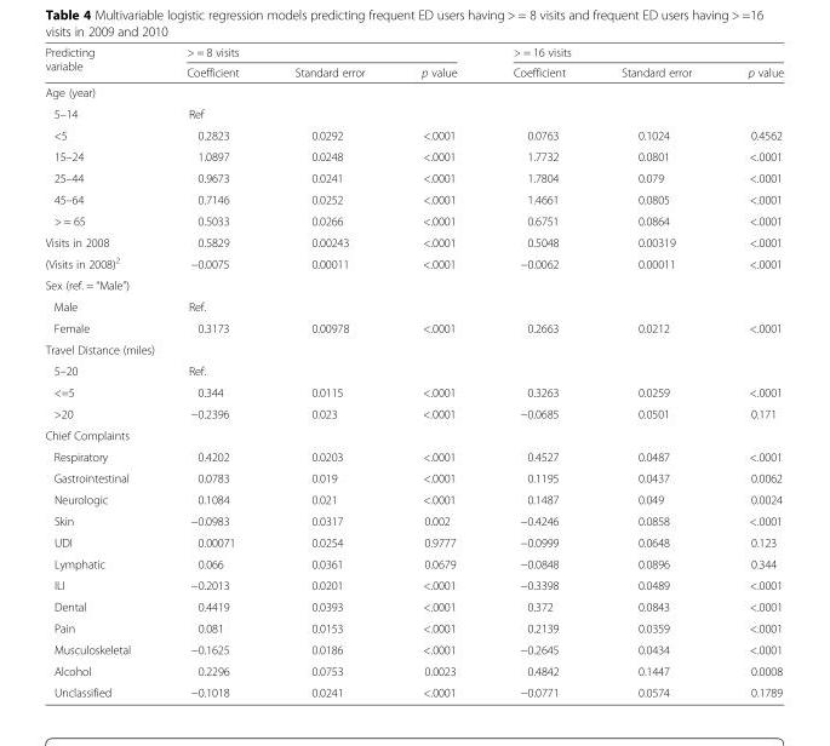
<table><thead><tr><td rowspan="2">Predicting variable</td><td colspan="3">&gt; = 8 visits</td><td colspan="3">&gt; = 16 visits</td></tr><tr><td>Coefficient</td><td>Standard error</td><td>p value</td><td>Coefficient</td><td>Standard error</td><td>p value</td></tr></thead><tbody><tr><td colspan="7">Age (year)</td></tr><tr><td>5–14</td><td colspan="6">Ref</td></tr><tr><td>&lt;5</td><td>0.2823</td><td>0.0292</td><td>&lt;.0001</td><td>0.0763</td><td>0.1024</td><td>0.4562</td></tr><tr><td>15–24</td><td>1.0897</td><td>0.0248</td><td>&lt;.0001</td><td>1.7732</td><td>0.0801</td><td>&lt;.0001</td></tr><tr><td>25–44</td><td>0.9673</td><td>0.0241</td><td>&lt;.0001</td><td>1.7804</td><td>0.079</td><td>&lt;.0001</td></tr><tr><td>45–64</td><td>0.7146</td><td>0.0252</td><td>&lt;.0001</td><td>1.4661</td><td>0.0805</td><td>&lt;.0001</td></tr><tr><td>&gt; = 65</td><td>0.5033</td><td>0.0266</td><td>&lt;.0001</td><td>0.6751</td><td>0.0864</td><td>&lt;.0001</td></tr><tr><td>Visits in 2008</td><td>0.5829</td><td>0.00243</td><td>&lt;.0001</td><td>0.5048</td><td>0.00319</td><td>&lt;.0001</td></tr><tr><td>(Visits in 2008)<sup>2</sup></td><td>−0.0075</td><td>0.00011</td><td>&lt;.0001</td><td>−0.0062</td><td>0.00011</td><td>&lt;.0001</td></tr><tr><td colspan="7">Sex (ref. = “Male”)</td></tr><tr><td>Male</td><td colspan="6">Ref.</td></tr><tr><td>Female</td><td>0.3173</td><td>0.00978</td><td>&lt;.0001</td><td>0.2663</td><td>0.0212</td><td>&lt;.0001</td></tr><tr><td colspan="7">Travel Distance (miles)</td></tr><tr><td>5–20</td><td colspan="6">Ref.</td></tr><tr><td>&lt;=5</td><td>0.344</td><td>0.0115</td><td>&lt;.0001</td><td>0.3263</td><td>0.0259</td><td>&lt;.0001</td></tr><tr><td>&gt;20</td><td>−0.2396</td><td>0.023</td><td>&lt;.0001</td><td>−0.0685</td><td>0.0501</td><td>0.171</td></tr><tr><td colspan="7">Chief Complaints</td></tr><tr><td>Respiratory</td><td>0.4202</td><td>0.0203</td><td>&lt;.0001</td><td>0.4527</td><td>0.0487</td><td>&lt;.0001</td></tr><tr><td>Gastrointestinal</td><td>0.0783</td><td>0.019</td><td>&lt;.0001</td><td>0.1195</td><td>0.0437</td><td>0.0062</td></tr><tr><td>Neurologic</td><td>0.1084</td><td>0.021</td><td>&lt;.0001</td><td>0.1487</td><td>0.049</td><td>0.0024</td></tr><tr><td>Skin</td><td>−0.0983</td><td>0.0317</td><td>0.002</td><td>−0.4246</td><td>0.0858</td><td>&lt;.0001</td></tr><tr><td>UDI</td><td>0.00071</td><td>0.0254</td><td>0.9777</td><td>−0.0999</td><td>0.0648</td><td>0.123</td></tr><tr><td>Lymphatic</td><td>0.066</td><td>0.0361</td><td>0.0679</td><td>−0.0848</td><td>0.0896</td><td>0.344</td></tr><tr><td>ILI</td><td>−0.2013</td><td>0.0201</td><td>&lt;.0001</td><td>−0.3398</td><td>0.0489</td><td>&lt;.0001</td></tr><tr><td>Dental</td><td>0.4419</td><td>0.0393</td><td>&lt;.0001</td><td>0.372</td><td>0.0843</td><td>&lt;.0001</td></tr><tr><td>Pain</td><td>0.081</td><td>0.0153</td><td>&lt;.0001</td><td>0.2139</td><td>0.0359</td><td>&lt;.0001</td></tr><tr><td>Musculoskeletal</td><td>−0.1625</td><td>0.0186</td><td>&lt;.0001</td><td>−0.2645</td><td>0.0434</td><td>&lt;.0001</td></tr><tr><td>Alcohol</td><td>0.2296</td><td>0.0753</td><td>0.0023</td><td>0.4842</td><td>0.1447</td><td>0.0008</td></tr><tr><td>Unclassified</td><td>−0.1018</td><td>0.0241</td><td>&lt;.0001</td><td>−0.0771</td><td>0.0574</td><td>0.1789</td></tr></tbody></table>